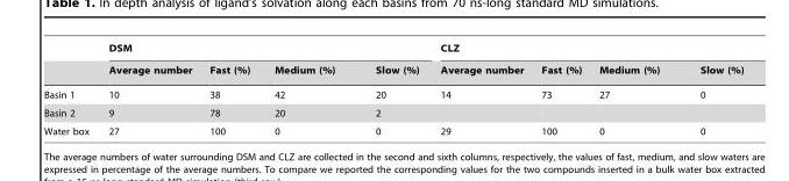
<table><thead><tr><td rowspan="2"></td><td colspan="4">DSM</td><td colspan="4">CLZ</td></tr><tr><td>Average number</td><td>Fast (%)</td><td>Medium (%)</td><td>Slow (%)</td><td>Average number</td><td>Fast (%)</td><td>Medium (%)</td><td>Slow (%)</td></tr></thead><tbody><tr><td>Basin 1</td><td>10</td><td>38</td><td>42</td><td>20</td><td>14</td><td>73</td><td>27</td><td>0</td></tr><tr><td>Basin 2</td><td>9</td><td>78</td><td>20</td><td>2</td><td></td><td></td><td></td><td></td></tr><tr><td>Water box</td><td>27</td><td>100</td><td>0</td><td>0</td><td>29</td><td>100</td><td>0</td><td>0</td></tr></tbody></table>